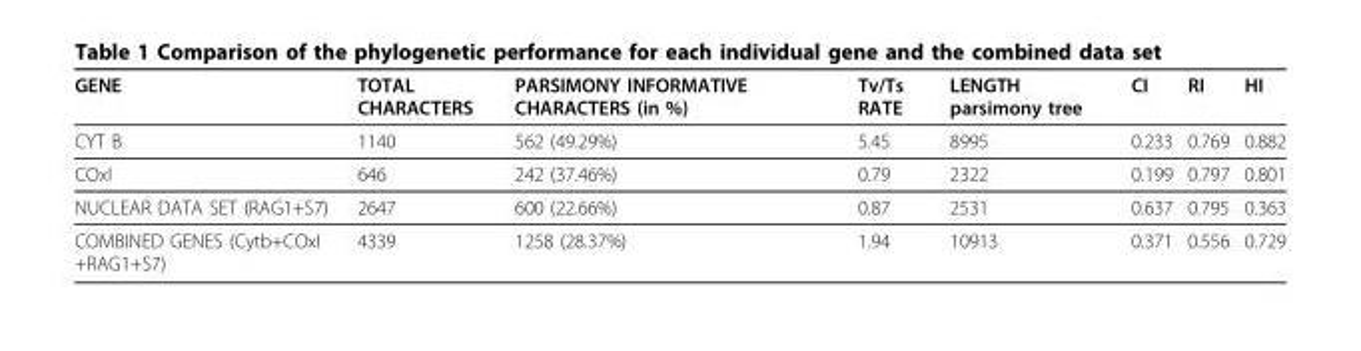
<table><thead><tr><td>GENE</td><td>TOTAL CHARACTERS</td><td>PARSIMONY INFORMATIVE CHARACTERS (in %)</td><td>Tv/Ts RATE</td><td>LENGTH parsimony tree</td><td>CI</td><td>RI</td><td>HI</td></tr></thead><tbody><tr><td>CYT B</td><td>1140</td><td>562 (49.29%)</td><td>5.45</td><td>8995</td><td>0.233</td><td>0.769</td><td>0.882</td></tr><tr><td>COxI</td><td>646</td><td>242 (37.46%)</td><td>0.79</td><td>2322</td><td>0.199</td><td>0.797</td><td>0.801</td></tr><tr><td>NUCLEAR DATA SET (RAG1+S7)</td><td>2647</td><td>600 (22.66%)</td><td>0.87</td><td>2531</td><td>0.637</td><td>0.795</td><td>0.363</td></tr><tr><td>COMBINED GENES (Cytb+COxI +RAG1+S7)</td><td>4339</td><td>1258 (28.37%)</td><td>1.94</td><td>10913</td><td>0.371</td><td>0.556</td><td>0.729</td></tr></tbody></table>